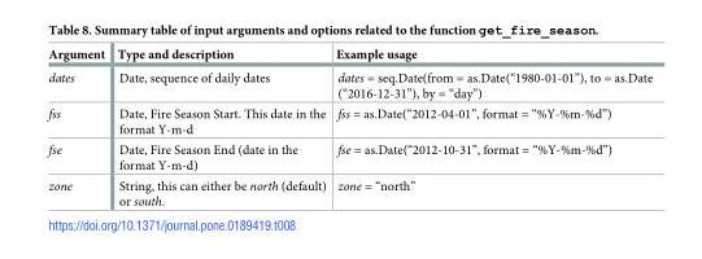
<table><thead><tr><td>Argument</td><td>Type and description</td><td>Example usage</td></tr></thead><tbody><tr><td>dates</td><td>Date, sequence of daily dates</td><td>dates = seq.Date(from = as.Date(“1980-01-01”), to = as.Date (“2016-12-31”), by = “day”)</td></tr><tr><td>fss</td><td>Date, Fire Season Start. This date in the format Y-m-d</td><td>fss = as.Date(“2012-04-01”, format = “%Y-%m-%d”)</td></tr><tr><td>fse</td><td>Date, Fire Season End (date in the format Y-m-d)</td><td>fse = as.Date(“2012-10-31”, format = “%Y-%m-%d”)</td></tr><tr><td>zone</td><td>String, this can either be north (default) or south.</td><td>zone = “north”</td></tr></tbody></table>